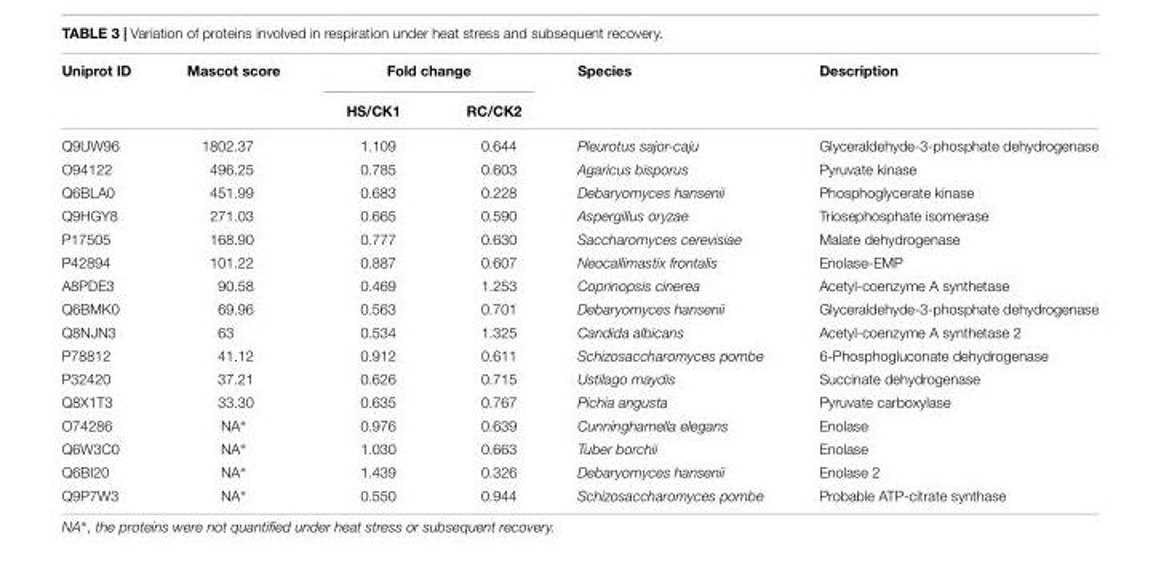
<table><thead><tr><td rowspan="2">Uniprot ID</td><td rowspan="2">Mascot score</td><td colspan="2">Fold change</td><td rowspan="2">Species</td><td rowspan="2">Description</td></tr><tr><td>HS/CK1</td><td>RC/CK2</td></tr></thead><tbody><tr><td>Q9UW96</td><td>1802.37</td><td>1.109</td><td>0.644</td><td>Pleurotus sajor-caju</td><td>Glyceraldehyde-3-phosphate dehydrogenase</td></tr><tr><td>O94122</td><td>496.25</td><td>0.785</td><td>0.603</td><td>Agaricus bisporus</td><td>Pyruvate kinase</td></tr><tr><td>Q6BLA0</td><td>451.99</td><td>0.683</td><td>0.228</td><td>Debaryomyces hansenii</td><td>Phosphoglycerate kinase</td></tr><tr><td>Q9HGY8</td><td>271.03</td><td>0.665</td><td>0.590</td><td>Aspergillus oryzae</td><td>Triosephosphate isomerase</td></tr><tr><td>P17505</td><td>168.90</td><td>0.777</td><td>0.630</td><td>Saccharomyces cerevisiae</td><td>Malate dehydrogenase</td></tr><tr><td>P42894</td><td>101.22</td><td>0.887</td><td>0.607</td><td>Neocallimastix frontalis</td><td>Enolase-EMP</td></tr><tr><td>A8PDE3</td><td>90.58</td><td>0.469</td><td>1.253</td><td>Coprinopsis cinerea</td><td>Acetyl-coenzyme A synthetase</td></tr><tr><td>Q6BMK0</td><td>69.96</td><td>0.563</td><td>0.701</td><td>Debaryomyces hansenii</td><td>Glyceraldehyde-3-phosphate dehydrogenase</td></tr><tr><td>Q8NJN3</td><td>63</td><td>0.534</td><td>1.325</td><td>Candida albicans</td><td>Acetyl-coenzyme A synthetase 2</td></tr><tr><td>P78812</td><td>41.12</td><td>0.912</td><td>0.611</td><td>Schizosaccharomyces pombe</td><td>6-Phosphogluconate dehydrogenase</td></tr><tr><td>P32420</td><td>37.21</td><td>0.626</td><td>0.715</td><td>Ustilago maydis</td><td>Succinate dehydrogenase</td></tr><tr><td>Q8X1T3</td><td>33.30</td><td>0.635</td><td>0.767</td><td>Pichia angusta</td><td>Pyruvate carboxylase</td></tr><tr><td>O74286</td><td>NA∗</td><td>0.976</td><td>0.639</td><td>Cunninghamella elegans</td><td>Enolase</td></tr><tr><td>Q6W3C0</td><td>NA∗</td><td>1.030</td><td>0.663</td><td>Tuber borchii</td><td>Enolase</td></tr><tr><td>Q6BI20</td><td>NA∗</td><td>1.439</td><td>0.326</td><td>Debaryomyces hansenii</td><td>Enolase 2</td></tr><tr><td>Q9P7W3</td><td>NA∗</td><td>0.550</td><td>0.944</td><td>Schizosaccharomyces pombe</td><td>Probable ATP-citrate synthase</td></tr></tbody></table>